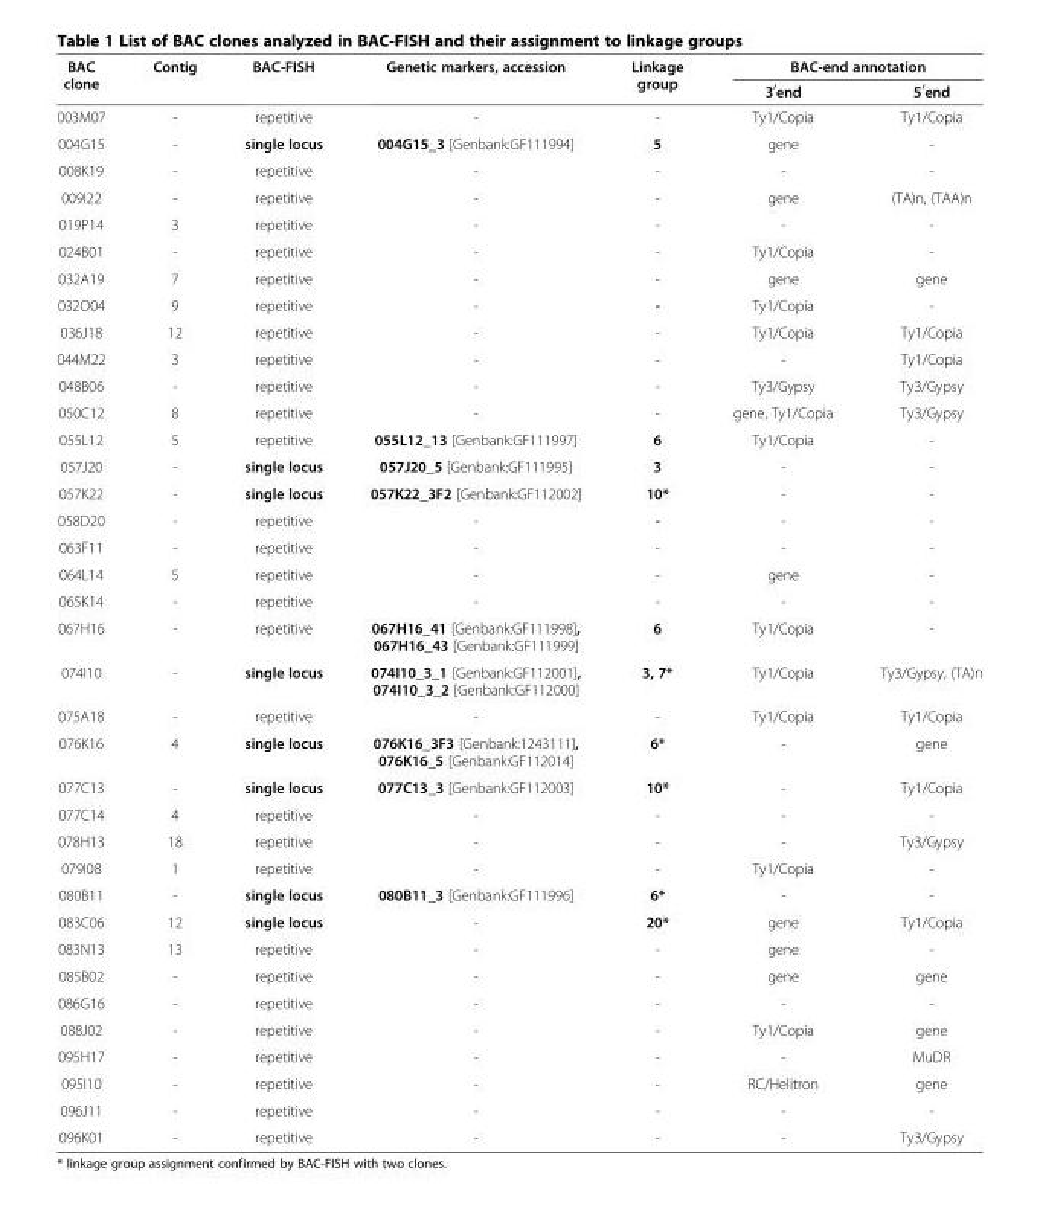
<table><thead><tr><td rowspan="2">BAC clone</td><td rowspan="2">Contig</td><td rowspan="2">BAC-FISH</td><td rowspan="2">Genetic markers, accession</td><td rowspan="2">Linkage group</td><td colspan="2">BAC-end annotation</td></tr><tr><td>3<sup>′</sup>end</td><td>5<sup>′</sup>end</td></tr></thead><tbody><tr><td>003M07</td><td>-</td><td>repetitive</td><td>-</td><td>-</td><td>Ty1/Copia</td><td>Ty1/Copia</td></tr><tr><td>004G15</td><td>-</td><td>single locus</td><td>004G15_3 [Genbank:GF111994]</td><td>5</td><td>gene</td><td>-</td></tr><tr><td>008K19</td><td>-</td><td>repetitive</td><td>-</td><td>-</td><td>-</td><td>-</td></tr><tr><td>009I22</td><td>-</td><td>repetitive</td><td>-</td><td>-</td><td>gene</td><td>(TA)n, (TAA)n</td></tr><tr><td>019P14</td><td>3</td><td>repetitive</td><td>-</td><td>-</td><td>-</td><td>-</td></tr><tr><td>024B01</td><td>-</td><td>repetitive</td><td>-</td><td>-</td><td>Ty1/Copia</td><td>-</td></tr><tr><td>032A19</td><td>7</td><td>repetitive</td><td>-</td><td>-</td><td>gene</td><td>gene</td></tr><tr><td>032O04</td><td>9</td><td>repetitive</td><td>-</td><td>-</td><td>Ty1/Copia</td><td>-</td></tr><tr><td>036J18</td><td>12</td><td>repetitive</td><td>-</td><td>-</td><td>Ty1/Copia</td><td>Ty1/Copia</td></tr><tr><td>044M22</td><td>3</td><td>repetitive</td><td>-</td><td>-</td><td>-</td><td>Ty1/Copia</td></tr><tr><td>048B06</td><td>-</td><td>repetitive</td><td>-</td><td>-</td><td>Ty3/Gypsy</td><td>Ty3/Gypsy</td></tr><tr><td>050C12</td><td>8</td><td>repetitive</td><td>-</td><td>-</td><td>gene, Ty1/Copia</td><td>Ty3/Gypsy</td></tr><tr><td>055L12</td><td>5</td><td>repetitive</td><td>055L12_13 [Genbank:GF111997]</td><td>6</td><td>Ty1/Copia</td><td>-</td></tr><tr><td>057J20</td><td>-</td><td>single locus</td><td>057J20_5 [Genbank:GF111995]</td><td>3</td><td>-</td><td>-</td></tr><tr><td>057K22</td><td>-</td><td>single locus</td><td>057K22_3F2 [Genbank:GF112002]</td><td>10*</td><td>-</td><td>-</td></tr><tr><td>058D20</td><td>-</td><td>repetitive</td><td>-</td><td>-</td><td>-</td><td>-</td></tr><tr><td>063F11</td><td>-</td><td>repetitive</td><td>-</td><td>-</td><td>-</td><td>-</td></tr><tr><td>064L14</td><td>5</td><td>repetitive</td><td>-</td><td>-</td><td>gene</td><td>-</td></tr><tr><td>065K14</td><td>-</td><td>repetitive</td><td>-</td><td>-</td><td>-</td><td>-</td></tr><tr><td>067H16</td><td>-</td><td>repetitive</td><td>067H16_41 [Genbank:GF111998], 067H16_43 [Genbank:GF111999]</td><td>6</td><td>Ty1/Copia</td><td>-</td></tr><tr><td>074I10</td><td>-</td><td>single locus</td><td>074I10_3_1 [Genbank:GF112001], 074I10_3_2 [Genbank:GF112000]</td><td>3, 7*</td><td>Ty1/Copia</td><td>Ty3/Gypsy, (TA)n</td></tr><tr><td>075A18</td><td>-</td><td>repetitive</td><td>-</td><td>-</td><td>Ty1/Copia</td><td>Ty1/Copia</td></tr><tr><td>076K16</td><td>4</td><td>single locus</td><td>076K16_3F3 [Genbank:1243111], 076K16_5 [Genbank:GF112014]</td><td>6*</td><td>-</td><td>gene</td></tr><tr><td>077C13</td><td>-</td><td>single locus</td><td>077C13_3 [Genbank:GF112003]</td><td>10*</td><td>-</td><td>Ty1/Copia</td></tr><tr><td>077C14</td><td>4</td><td>repetitive</td><td>-</td><td>-</td><td>-</td><td>-</td></tr><tr><td>078H13</td><td>18</td><td>repetitive</td><td>-</td><td>-</td><td>-</td><td>Ty3/Gypsy</td></tr><tr><td>079I08</td><td>1</td><td>repetitive</td><td>-</td><td>-</td><td>Ty1/Copia</td><td>-</td></tr><tr><td>080B11</td><td>-</td><td>single locus</td><td>080B11_3 [Genbank:GF111996]</td><td>6*</td><td>-</td><td>-</td></tr><tr><td>083C06</td><td>12</td><td>single locus</td><td>-</td><td>20*</td><td>gene</td><td>Ty1/Copia</td></tr><tr><td>083N13</td><td>13</td><td>repetitive</td><td>-</td><td>-</td><td>gene</td><td>-</td></tr><tr><td>085B02</td><td>-</td><td>repetitive</td><td>-</td><td>-</td><td>gene</td><td>gene</td></tr><tr><td>086G16</td><td>-</td><td>repetitive</td><td>-</td><td>-</td><td>-</td><td>-</td></tr><tr><td>088J02</td><td>-</td><td>repetitive</td><td>-</td><td>-</td><td>Ty1/Copia</td><td>gene</td></tr><tr><td>095H17</td><td>-</td><td>repetitive</td><td>-</td><td>-</td><td>-</td><td>MuDR</td></tr><tr><td>095I10</td><td>-</td><td>repetitive</td><td>-</td><td>-</td><td>RC/Helitron</td><td>gene</td></tr><tr><td>096J11</td><td>-</td><td>repetitive</td><td>-</td><td>-</td><td>-</td><td>-</td></tr><tr><td>096K01</td><td>-</td><td>repetitive</td><td>-</td><td>-</td><td>-</td><td>Ty3/Gypsy</td></tr></tbody></table>